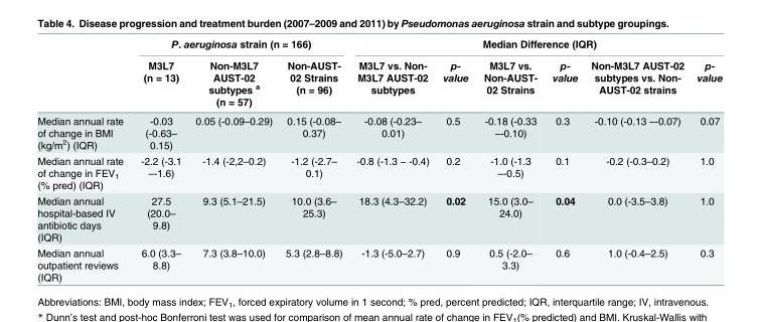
<table><thead><tr><td rowspan="2"></td><td colspan="3">P. aeruginosa strain (n = 166)</td><td colspan="6">Median Difference (IQR)</td></tr><tr><td>M3L7 (n = 13)</td><td>Non-M3L7 AUST-02 subtypes <sup>a</sup> (n = 57)</td><td>Non-AUST- 02 Strains (n = 96)</td><td>M3L7 vs. Non- M3L7 AUST-02 subtypes</td><td>p- value</td><td>M3L7 vs. Non-AUST- 02 Strains</td><td>p- value</td><td>Non-M3L7 AUST-02 subtypes vs. Non- AUST-02 strains</td><td>p- value</td></tr></thead><tbody><tr><td>Median annual rate of change in BMI (kg/m<sup>2</sup>) (IQR)</td><td>-0.03 (-0.63– 0.15)</td><td>0.05 (-0.09–0.29)</td><td>0.15 (-0.08– 0.37)</td><td>-0.08 (-0.23– 0.01)</td><td>0.5</td><td>-0.18 (-0.33 –-0.10)</td><td>0.3</td><td>-0.10 (-0.13 –-0.07)</td><td>0.07</td></tr><tr><td>Median annual rate of change in FEV<sub>1</sub> (% pred) (IQR)</td><td>-2.2 (-3.1 –-1.6)</td><td>-1.4 (-2,2–0.2)</td><td>-1.2 (-2.7– 0.1)</td><td>-0.8 (-1.3 − -0.4)</td><td>0.2</td><td>-1.0 (-1.3 –-0.5)</td><td>0.1</td><td>-0.2 (-0.3–0.2)</td><td>1.0</td></tr><tr><td>Median annual hospital-based IV antibiotic days (IQR)</td><td>27.5 (20.0– 9.8)</td><td>9.3 (5.1–21.5)</td><td>10.0 (3.6– 25.3)</td><td>18.3 (4.3–32.2)</td><td>0.02</td><td>15.0 (3.0– 24.0)</td><td>0.04</td><td>0.0 (-3.5–3.8)</td><td>1.0</td></tr><tr><td>Median annual outpatient reviews (IQR)</td><td>6.0 (3.3– 8.8)</td><td>7.3 (3.8–10.0)</td><td>5.3 (2.8–8.8)</td><td>-1.3 (-5.0–2.7)</td><td>0.9</td><td>0.5 (-2.0– 3.3)</td><td>0.6</td><td>1.0 (-0.4–2.5)</td><td>0.3</td></tr></tbody></table>